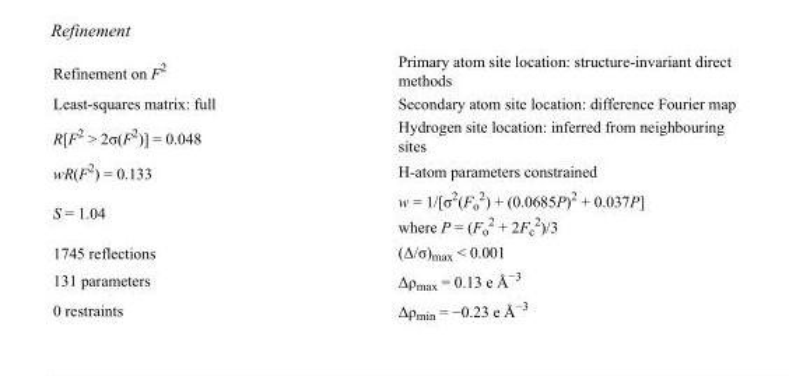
<table><tbody><tr><td>Refinement on F<sup>2</sup></td><td>Primary atom site location: structure-invariant direct methods</td></tr><tr><td>Least-squares matrix: full</td><td>Secondary atom site location: difference Fourier map</td></tr><tr><td>R[F<sup>2</sup> &gt; 2σ(F<sup>2</sup>)] = 0.048</td><td>Hydrogen site location: inferred from neighbouring sites</td></tr><tr><td>wR(F<sup>2</sup>) = 0.133</td><td>H-atom parameters constrained</td></tr><tr><td>S = 1.04</td><td>w = 1/[σ<sup>2</sup>(F<sub>o</sub> <sup>2</sup>) + (0.0685P)<sup>2</sup> + 0.037P] where P = (F<sub>o</sub> <sup>2</sup> + 2F<sub>c</sub> <sup>2</sup>)/3</td></tr><tr><td>1745 reflections</td><td>(Δ/σ)<sub>max</sub> &lt; 0.001</td></tr><tr><td>131 parameters</td><td>Δρ<sub>max</sub> = 0.13 e Å<sup>−3</sup></td></tr><tr><td>0 restraints</td><td>Δρ<sub>min</sub> = −0.23 e Å<sup>−3</sup></td></tr></tbody></table>